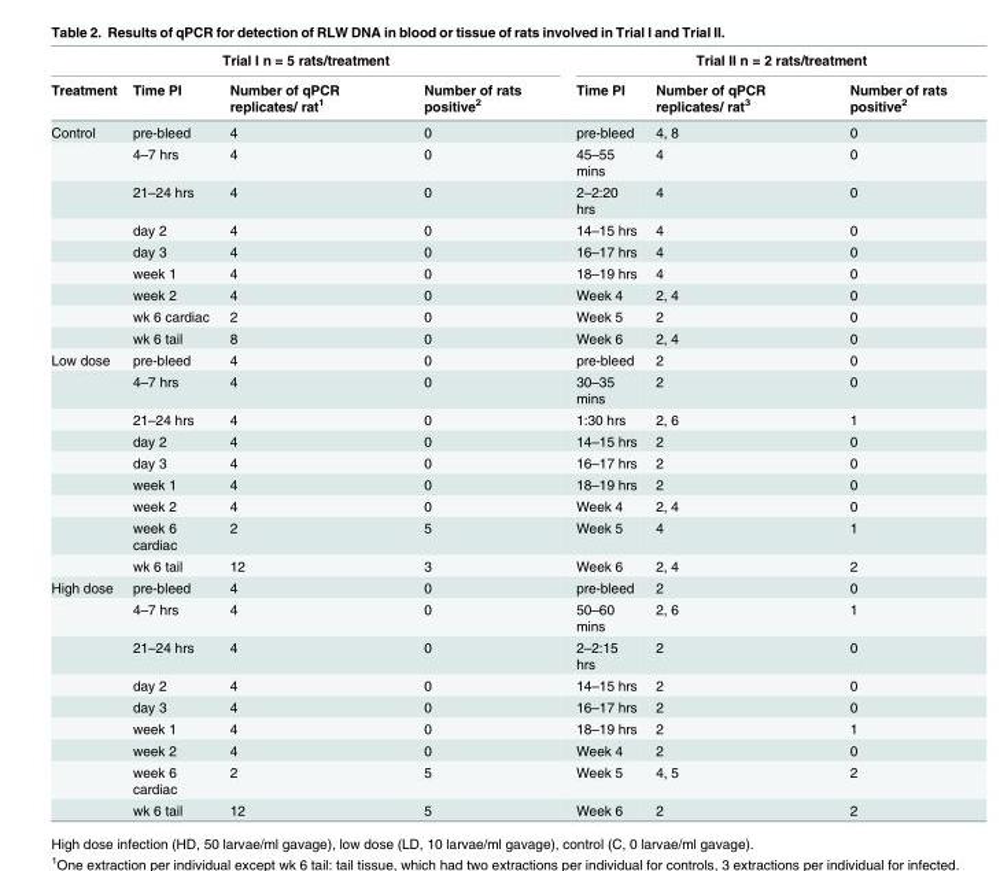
<table><thead><tr><td colspan="4">Trial I n = 5 rats/treatment</td><td colspan="3">Trial II n = 2 rats/treatment</td></tr><tr><td>Treatment</td><td>Time PI</td><td>Number of qPCR replicates/ rat<sup>1</sup></td><td>Number of rats positive<sup>2</sup></td><td>Time PI</td><td>Number of qPCR replicates/ rat<sup>3</sup></td><td>Number of rats positive<sup>2</sup></td></tr></thead><tbody><tr><td rowspan="9">Control</td><td>pre-bleed</td><td>4</td><td>0</td><td>pre-bleed</td><td>4, 8</td><td>0</td></tr><tr><td>4–7 hrs</td><td>4</td><td>0</td><td>45–55 mins</td><td>4</td><td>0</td></tr><tr><td>21–24 hrs</td><td>4</td><td>0</td><td>2–2:20 hrs</td><td>4</td><td>0</td></tr><tr><td>day 2</td><td>4</td><td>0</td><td>14–15 hrs</td><td>4</td><td>0</td></tr><tr><td>day 3</td><td>4</td><td>0</td><td>16–17 hrs</td><td>4</td><td>0</td></tr><tr><td>week 1</td><td>4</td><td>0</td><td>18–19 hrs</td><td>4</td><td>0</td></tr><tr><td>week 2</td><td>4</td><td>0</td><td>Week 4</td><td>2, 4</td><td>0</td></tr><tr><td>wk 6 cardiac</td><td>2</td><td>0</td><td>Week 5</td><td>2</td><td>0</td></tr><tr><td>wk 6 tail</td><td>8</td><td>0</td><td>Week 6</td><td>2, 4</td><td>0</td></tr><tr><td rowspan="9">Low dose</td><td>pre-bleed</td><td>4</td><td>0</td><td>pre-bleed</td><td>2</td><td>0</td></tr><tr><td>4–7 hrs</td><td>4</td><td>0</td><td>30–35 mins</td><td>2</td><td>0</td></tr><tr><td>21–24 hrs</td><td>4</td><td>0</td><td>1:30 hrs</td><td>2, 6</td><td>1</td></tr><tr><td>day 2</td><td>4</td><td>0</td><td>14–15 hrs</td><td>2</td><td>0</td></tr><tr><td>day 3</td><td>4</td><td>0</td><td>16–17 hrs</td><td>2</td><td>0</td></tr><tr><td>week 1</td><td>4</td><td>0</td><td>18–19 hrs</td><td>2</td><td>0</td></tr><tr><td>week 2</td><td>4</td><td>0</td><td>Week 4</td><td>2, 4</td><td>0</td></tr><tr><td>week 6 cardiac</td><td>2</td><td>5</td><td>Week 5</td><td>4</td><td>1</td></tr><tr><td>wk 6 tail</td><td>12</td><td>3</td><td>Week 6</td><td>2, 4</td><td>2</td></tr><tr><td rowspan="9">High dose</td><td>pre-bleed</td><td>4</td><td>0</td><td>pre-bleed</td><td>2</td><td>0</td></tr><tr><td>4–7 hrs</td><td>4</td><td>0</td><td>50–60 mins</td><td>2, 6</td><td>1</td></tr><tr><td>21–24 hrs</td><td>4</td><td>0</td><td>2–2:15 hrs</td><td>2</td><td>0</td></tr><tr><td>day 2</td><td>4</td><td>0</td><td>14–15 hrs</td><td>2</td><td>0</td></tr><tr><td>day 3</td><td>4</td><td>0</td><td>16–17 hrs</td><td>2</td><td>0</td></tr><tr><td>week 1</td><td>4</td><td>0</td><td>18–19 hrs</td><td>2</td><td>1</td></tr><tr><td>week 2</td><td>4</td><td>0</td><td>Week 4</td><td>2</td><td>0</td></tr><tr><td>week 6 cardiac</td><td>2</td><td>5</td><td>Week 5</td><td>4, 5</td><td>2</td></tr><tr><td>wk 6 tail</td><td>12</td><td>5</td><td>Week 6</td><td>2</td><td>2</td></tr></tbody></table>